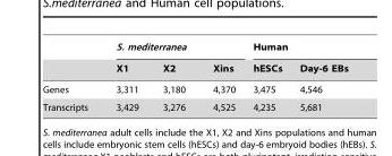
<table><thead><tr><td rowspan="2"></td><td colspan="3">S. mediterranea</td><td colspan="2">Human</td></tr><tr><td>X1</td><td>X2</td><td>Xins</td><td>hESCs</td><td>Day-6 EBs</td></tr></thead><tbody><tr><td>Genes</td><td>3,311</td><td>3,180</td><td>4,370</td><td>3,475</td><td>4,546</td></tr><tr><td>Transcripts</td><td>3,429</td><td>3,276</td><td>4,525</td><td>4,235</td><td>5,681</td></tr></tbody></table>